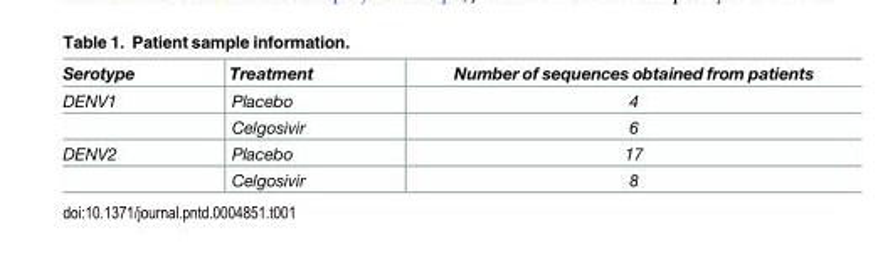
<table><thead><tr><td>Serotype</td><td>Treatment</td><td>Number of sequences obtained from patients</td></tr></thead><tbody><tr><td rowspan="2">DENV1</td><td>Placebo</td><td>4</td></tr><tr><td>Celgosivir</td><td>6</td></tr><tr><td rowspan="2">DENV2</td><td>Placebo</td><td>17</td></tr><tr><td>Celgosivir</td><td>8</td></tr></tbody></table>